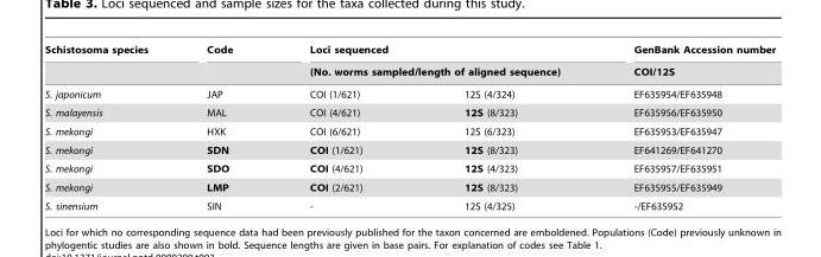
<table><thead><tr><td rowspan="3">Schistosoma species S. japonicum</td><td rowspan="3">Code JAP</td><td rowspan="2" colspan="2">Loci sequenced (No. worms sampled/length of aligned sequence)</td><td rowspan="3">GenBank Accession number COI/12S EF635954/EF635948</td></tr><tr></tr><tr><td>COI (1/621)</td><td>12S (4/324)</td></tr></thead><tbody><tr><td>S. malayensis</td><td>MAL</td><td>COI (4/621)</td><td>12S (8/323)</td><td>EF635956/EF635950</td></tr><tr><td>S. mekongi</td><td>HXK</td><td>COI (6/621)</td><td>12S (6/323)</td><td>EF635953/EF635947</td></tr><tr><td>S. mekongi</td><td>SDN</td><td>COI (1/621)</td><td>12S (8/323)</td><td>EF641269/EF641270</td></tr><tr><td>S. mekongi</td><td>SDO</td><td>COI (4/621)</td><td>12S (4/323)</td><td>EF635957/EF635951</td></tr><tr><td>S. mekongi</td><td>LMP</td><td>COI (2/621)</td><td>12S (8/323)</td><td>EF635955/EF635949</td></tr><tr><td>S. sinensium</td><td>SIN</td><td>-</td><td>12S (4/325)</td><td>-/EF635952</td></tr></tbody></table>